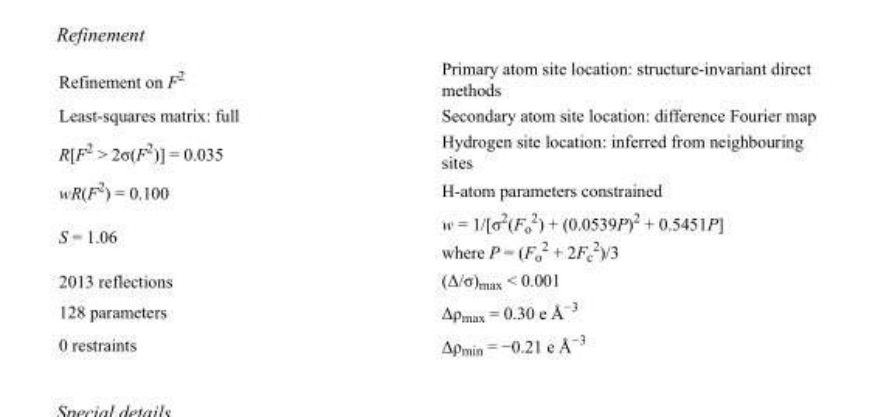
<table><tbody><tr><td>Refinement on F<sup>2</sup></td><td>Primary atom site location: structure-invariant direct methods</td></tr><tr><td>Least-squares matrix: full</td><td>Secondary atom site location: difference Fourier map</td></tr><tr><td>R[F<sup>2</sup> &gt; 2σ(F<sup>2</sup>)] = 0.035</td><td>Hydrogen site location: inferred from neighbouring sites</td></tr><tr><td>wR(F<sup>2</sup>) = 0.100</td><td>H-atom parameters constrained</td></tr><tr><td>S = 1.06</td><td>w = 1/[σ<sup>2</sup>(F<sub>o</sub> <sup>2</sup>) + (0.0539P)<sup>2</sup> + 0.5451P] where P = (F<sub>o</sub> <sup>2</sup> + 2F<sub>c</sub> <sup>2</sup>)/3</td></tr><tr><td>2013 reflections</td><td>(Δ/σ)<sub>max</sub> &lt; 0.001</td></tr><tr><td>128 parameters</td><td>Δρ<sub>max</sub> = 0.30 e Å<sup>−3</sup></td></tr><tr><td>0 restraints</td><td>Δρ<sub>min</sub> = −0.21 e Å<sup>−3</sup></td></tr></tbody></table>